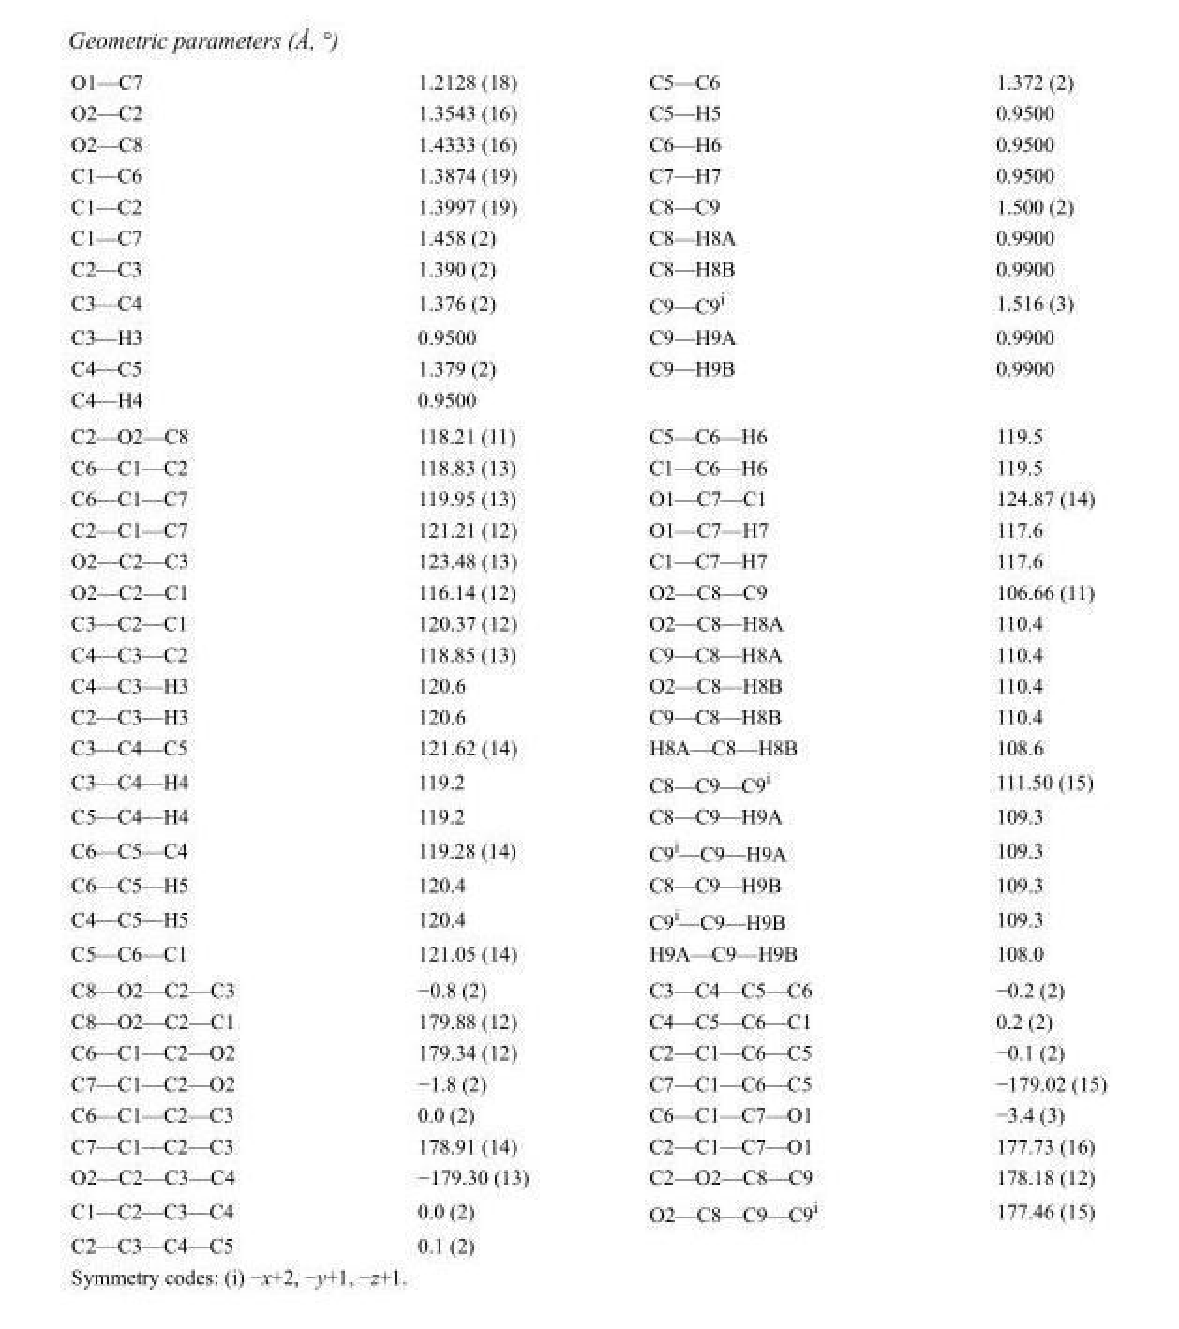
<table><tbody><tr><td>O1—C7</td><td>1.2128 (18)</td><td>C5—C6</td><td>1.372 (2)</td></tr><tr><td>O2—C2</td><td>1.3543 (16)</td><td>C5—H5</td><td>0.9500</td></tr><tr><td>O2—C8</td><td>1.4333 (16)</td><td>C6—H6</td><td>0.9500</td></tr><tr><td>C1—C6</td><td>1.3874 (19)</td><td>C7—H7</td><td>0.9500</td></tr><tr><td>C1—C2</td><td>1.3997 (19)</td><td>C8—C9</td><td>1.500 (2)</td></tr><tr><td>C1—C7</td><td>1.458 (2)</td><td>C8—H8A</td><td>0.9900</td></tr><tr><td>C2—C3</td><td>1.390 (2)</td><td>C8—H8B</td><td>0.9900</td></tr><tr><td>C3—C4</td><td>1.376 (2)</td><td>C9—C9<sup>i</sup></td><td>1.516 (3)</td></tr><tr><td>C3—H3</td><td>0.9500</td><td>C9—H9A</td><td>0.9900</td></tr><tr><td>C4—C5</td><td>1.379 (2)</td><td>C9—H9B</td><td>0.9900</td></tr><tr><td>C4—H4</td><td>0.9500</td><td></td><td></td></tr><tr><td>C2—O2—C8</td><td>118.21 (11)</td><td>C5—C6—H6</td><td>119.5</td></tr><tr><td>C6—C1—C2</td><td>118.83 (13)</td><td>C1—C6—H6</td><td>119.5</td></tr><tr><td>C6—C1—C7</td><td>119.95 (13)</td><td>O1—C7—C1</td><td>124.87 (14)</td></tr><tr><td>C2—C1—C7</td><td>121.21 (12)</td><td>O1—C7—H7</td><td>117.6</td></tr><tr><td>O2—C2—C3</td><td>123.48 (13)</td><td>C1—C7—H7</td><td>117.6</td></tr><tr><td>O2—C2—C1</td><td>116.14 (12)</td><td>O2—C8—C9</td><td>106.66 (11)</td></tr><tr><td>C3—C2—C1</td><td>120.37 (12)</td><td>O2—C8—H8A</td><td>110.4</td></tr><tr><td>C4—C3—C2</td><td>118.85 (13)</td><td>C9—C8—H8A</td><td>110.4</td></tr><tr><td>C4—C3—H3</td><td>120.6</td><td>O2—C8—H8B</td><td>110.4</td></tr><tr><td>C2—C3—H3</td><td>120.6</td><td>C9—C8—H8B</td><td>110.4</td></tr><tr><td>C3—C4—C5</td><td>121.62 (14)</td><td>H8A—C8—H8B</td><td>108.6</td></tr><tr><td>C3—C4—H4</td><td>119.2</td><td>C8—C9—C9<sup>i</sup></td><td>111.50 (15)</td></tr><tr><td>C5—C4—H4</td><td>119.2</td><td>C8—C9—H9A</td><td>109.3</td></tr><tr><td>C6—C5—C4</td><td>119.28 (14)</td><td>C9<sup>i</sup>—C9—H9A</td><td>109.3</td></tr><tr><td>C6—C5—H5</td><td>120.4</td><td>C8—C9—H9B</td><td>109.3</td></tr><tr><td>C4—C5—H5</td><td>120.4</td><td>C9<sup>i</sup>—C9—H9B</td><td>109.3</td></tr><tr><td>C5—C6—C1</td><td>121.05 (14)</td><td>H9A—C9—H9B</td><td>108.0</td></tr><tr><td>C8—O2—C2—C3</td><td>−0.8 (2)</td><td>C3—C4—C5—C6</td><td>−0.2 (2)</td></tr><tr><td>C8—O2—C2—C1</td><td>179.88 (12)</td><td>C4—C5—C6—C1</td><td>0.2 (2)</td></tr><tr><td>C6—C1—C2—O2</td><td>179.34 (12)</td><td>C2—C1—C6—C5</td><td>−0.1 (2)</td></tr><tr><td>C7—C1—C2—O2</td><td>−1.8 (2)</td><td>C7—C1—C6—C5</td><td>−179.02 (15)</td></tr><tr><td>C6—C1—C2—C3</td><td>0.0 (2)</td><td>C6—C1—C7—O1</td><td>−3.4 (3)</td></tr><tr><td>C7—C1—C2—C3</td><td>178.91 (14)</td><td>C2—C1—C7—O1</td><td>177.73 (16)</td></tr><tr><td>O2—C2—C3—C4</td><td>−179.30 (13)</td><td>C2—O2—C8—C9</td><td>178.18 (12)</td></tr><tr><td>C1—C2—C3—C4</td><td>0.0 (2)</td><td>O2—C8—C9—C9<sup>i</sup></td><td>177.46 (15)</td></tr><tr><td>C2—C3—C4—C5</td><td>0.1 (2)</td><td></td><td></td></tr></tbody></table>